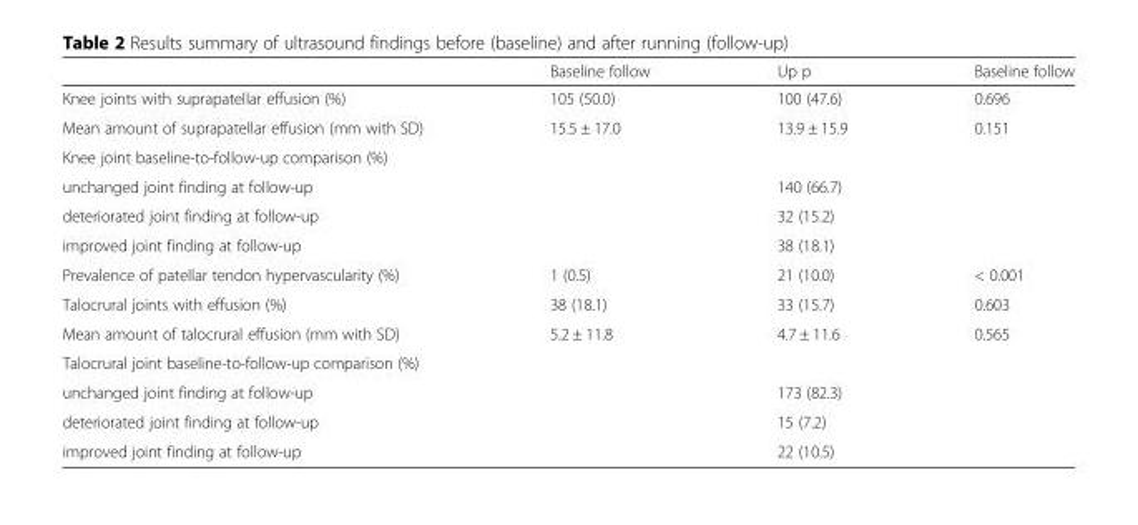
<table><thead><tr><td></td><td>Baseline follow</td><td>Up p</td><td>Baseline follow</td></tr></thead><tbody><tr><td>Knee joints with suprapatellar effusion (%)</td><td>105 (50.0)</td><td>100 (47.6)</td><td>0.696</td></tr><tr><td>Mean amount of suprapatellar effusion (mm with SD)</td><td>15.5 ± 17.0</td><td>13.9 ± 15.9</td><td>0.151</td></tr><tr><td colspan="4">Knee joint baseline-to-follow-up comparison (%)</td></tr><tr><td>unchanged joint finding at follow-up</td><td></td><td>140 (66.7)</td><td></td></tr><tr><td>deteriorated joint finding at follow-up</td><td></td><td>32 (15.2)</td><td></td></tr><tr><td>improved joint finding at follow-up</td><td></td><td>38 (18.1)</td><td></td></tr><tr><td>Prevalence of patellar tendon hypervascularity (%)</td><td>1 (0.5)</td><td>21 (10.0)</td><td>&lt; 0.001</td></tr><tr><td>Talocrural joints with effusion (%)</td><td>38 (18.1)</td><td>33 (15.7)</td><td>0.603</td></tr><tr><td>Mean amount of talocrural effusion (mm with SD)</td><td>5.2 ± 11.8</td><td>4.7 ± 11.6</td><td>0.565</td></tr><tr><td colspan="4">Talocrural joint baseline-to-follow-up comparison (%)</td></tr><tr><td>unchanged joint finding at follow-up</td><td></td><td>173 (82.3)</td><td></td></tr><tr><td>deteriorated joint finding at follow-up</td><td></td><td>15 (7.2)</td><td></td></tr><tr><td>improved joint finding at follow-up</td><td></td><td>22 (10.5)</td><td></td></tr></tbody></table>